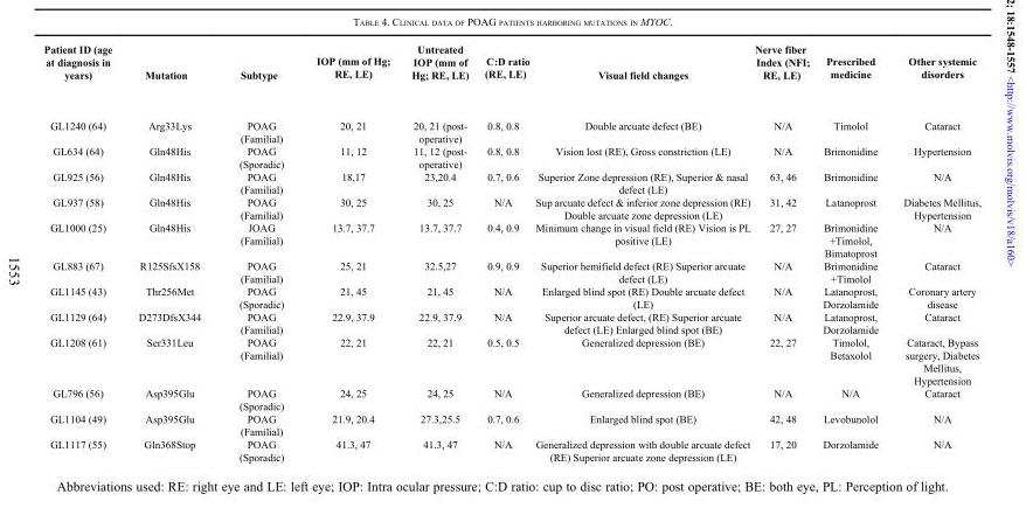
<table><thead><tr><td>Patient ID (age at diagnosis in years)</td><td>Mutation</td><td>Subtype</td><td>IOP (mm of Hg; RE, LE)</td><td>Untreated IOP (mm of Hg; RE, LE)</td><td>C:D ratio (RE, LE)</td><td>Visual field changes</td><td>Nerve fiber Index (NFI; RE, LE)</td><td>Prescribed medicine</td><td>Other systemic disorders</td></tr></thead><tbody><tr><td>GL1240 (64)</td><td>Arg33Lys</td><td>POAG (Familial)</td><td>20, 21</td><td>20, 21 (post- operative)</td><td>0.8, 0.8</td><td>Double arcuate defect (BE)</td><td>N/A</td><td>Timolol</td><td>Cataract</td></tr><tr><td>GL634 (64)</td><td>Gln48His</td><td>POAG (Sporadic)</td><td>11, 12</td><td>11, 12 (post- operative)</td><td>0.8, 0.8</td><td>Vision lost (RE), Gross constriction (LE)</td><td>N/A</td><td>Brimonidine</td><td>Hypertension</td></tr><tr><td>GL925 (56)</td><td>Gln48His</td><td>POAG (Familial)</td><td>18,17</td><td>23,20.4</td><td>0.7, 0.6</td><td>Superior Zone depression (RE), Superior &amp; nasal defect (LE)</td><td>63, 46</td><td>Brimonidine</td><td>N/A</td></tr><tr><td>GL937 (58)</td><td>Gln48His</td><td>POAG (Familial)</td><td>30, 25</td><td>30, 25</td><td>N/A</td><td>Sup arcuate defect &amp; inferior zone depression (RE) Double arcuate zone depression (LE)</td><td>31, 42</td><td>Latanoprost</td><td>Diabetes Mellitus, Hypertension</td></tr><tr><td>GL1000 (25)</td><td>Gln48His</td><td>JOAG (Familial)</td><td>13.7, 37.7</td><td>13.7, 37.7</td><td>0.4, 0.9</td><td>Minimum change in visual field (RE) Vision is PL positive (LE)</td><td>27, 27</td><td>Brimonidine +Timolol, Bimatoprost</td><td>N/A</td></tr><tr><td>GL883 (67)</td><td>R125SfsX158</td><td>POAG (Familial)</td><td>25, 21</td><td>32.5,27</td><td>0.9, 0.9</td><td>Superior hemifield defect (RE) Superior arcuate defect (LE)</td><td>N/A</td><td>Brimonidine +Timolol</td><td>Cataract</td></tr><tr><td>GL1145 (43)</td><td>Thr256Met</td><td>POAG (Sporadic)</td><td>21, 45</td><td>21, 45</td><td>N/A</td><td>Enlarged blind spot (RE) Double arcuate defect (LE)</td><td>N/A</td><td>Latanoprost, Dorzolamide</td><td>Coronary artery disease</td></tr><tr><td>GL1129 (64)</td><td>D273DfsX344</td><td>POAG (Familial)</td><td>22.9, 37.9</td><td>22.9, 37.9</td><td>N/A</td><td>Superior arcuate defect, (RE) Superior arcuate defect (LE) Enlarged blind spot (BE)</td><td>N/A</td><td>Latanoprost, Dorzolamide</td><td>Cataract</td></tr><tr><td>GL1208 (61)</td><td>Ser331Leu</td><td>POAG (Familial)</td><td>22, 21</td><td>22, 21</td><td>0.5, 0.5</td><td>Generalized depression (BE)</td><td>22, 27</td><td>Timolol, Betaxolol</td><td>Cataract, Bypass surgery, Diabetes Mellitus, Hypertension</td></tr><tr><td>GL796 (56)</td><td>Asp395Glu</td><td>POAG (Sporadic)</td><td>24, 25</td><td>24, 25</td><td>N/A</td><td>Generalized depression (BE)</td><td>N/A</td><td>N/A</td><td>Cataract</td></tr><tr><td>GL1104 (49)</td><td>Asp395Glu</td><td>POAG (Familial)</td><td>21.9, 20.4</td><td>27.3,25.5</td><td>0.7, 0.6</td><td>Enlarged blind spot (BE)</td><td>42, 48</td><td>Levobunolol</td><td>N/A</td></tr><tr><td>GL1117 (55)</td><td>Gln368Stop</td><td>POAG (Sporadic)</td><td>41.3, 47</td><td>41.3, 47</td><td>N/A</td><td>Generalized depression with double arcuate defect (RE) Superior arcuate zone depression (LE)</td><td>17, 20</td><td>Dorzolamide</td><td>N/A</td></tr></tbody></table>